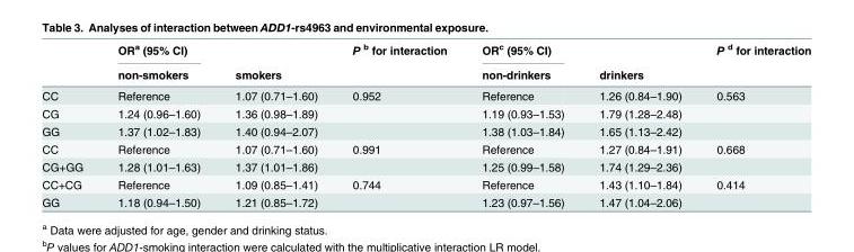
<table><thead><tr><td rowspan="2"></td><td rowspan="2">OR<sup>a</sup> (95% CI) non-smokers</td><td rowspan="2">smokers</td><td rowspan="2">P <sup>b</sup> for interaction</td><td rowspan="2">OR<sup>c</sup> (95% CI) non-drinkers</td><td rowspan="2">drinkers</td><td rowspan="2">P <sup>d</sup> for interaction</td></tr><tr></tr></thead><tbody><tr><td>CC</td><td>Reference</td><td>1.07 (0.71–1.60)</td><td>0.952</td><td>Reference</td><td>1.26 (0.84–1.90)</td><td>0.563</td></tr><tr><td>CG</td><td>1.24 (0.96–1.60)</td><td>1.36 (0.98–1.89)</td><td></td><td>1.19 (0.93–1.53)</td><td>1.79 (1.28–2.48)</td><td></td></tr><tr><td>GG</td><td>1.37 (1.02–1.83)</td><td>1.40 (0.94–2.07)</td><td></td><td>1.38 (1.03–1.84)</td><td>1.65 (1.13–2.42)</td><td></td></tr><tr><td>CC</td><td>Reference</td><td>1.07 (0.71–1.60)</td><td>0.991</td><td>Reference</td><td>1.27 (0.84–1.91)</td><td>0.668</td></tr><tr><td>CG+GG</td><td>1.28 (1.01–1.63)</td><td>1.37 (1.01–1.86)</td><td></td><td>1.25 (0.99–1.58)</td><td>1.74 (1.29–2.36)</td><td></td></tr><tr><td>CC+CG</td><td>Reference</td><td>1.09 (0.85–1.41)</td><td>0.744</td><td>Reference</td><td>1.43 (1.10–1.84)</td><td>0.414</td></tr><tr><td>GG</td><td>1.18 (0.94–1.50)</td><td>1.21 (0.85–1.72)</td><td></td><td>1.23 (0.97–1.56)</td><td>1.47 (1.04–2.06)</td><td></td></tr></tbody></table>